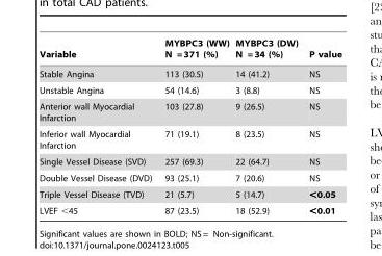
<table><thead><tr><td>Variable</td><td>MYBPC3 (WW) N = 371 (%)</td><td>MYBPC3 (DW) N = 34 (%)</td><td>P value</td></tr></thead><tbody><tr><td>Stable Angina</td><td>113 (30.5)</td><td>14 (41.2)</td><td>NS</td></tr><tr><td>Unstable Angina</td><td>54 (14.6)</td><td>3 (8.8)</td><td>NS</td></tr><tr><td>Anterior wall Myocardial Infarction</td><td>103 (27.8)</td><td>9 (26.5)</td><td>NS</td></tr><tr><td>Inferior wall Myocardial Infarction</td><td>71 (19.1)</td><td>8 (23.5)</td><td>NS</td></tr><tr><td>Single Vessel Disease (SVD)</td><td>257 (69.3)</td><td>22 (64.7)</td><td>NS</td></tr><tr><td>Double Vessel Disease (DVD)</td><td>93 (25.1)</td><td>7 (20.6)</td><td>NS</td></tr><tr><td>Triple Vessel Disease (TVD)</td><td>21 (5.7)</td><td>5 (14.7)</td><td>&lt;0.05</td></tr><tr><td>LVEF &lt;45</td><td>87 (23.5)</td><td>18 (52.9)</td><td>&lt;0.01</td></tr></tbody></table>